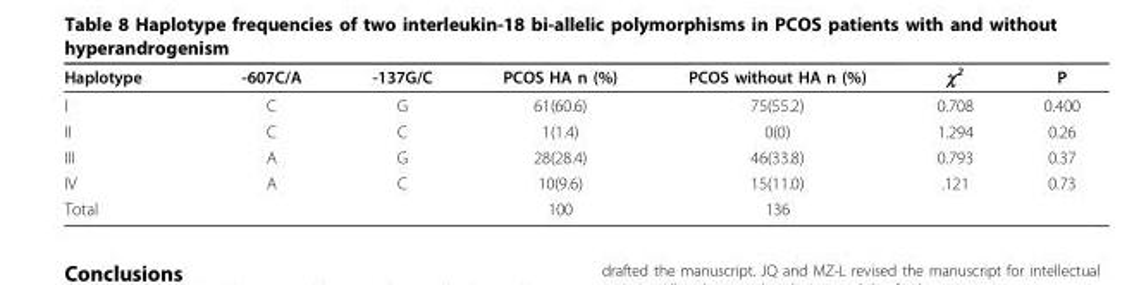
<table><thead><tr><td>Haplotype</td><td>-607C/A</td><td>-137G/C</td><td>PCOS HA n (%)</td><td>PCOS without HA n (%)</td><td>χ<sup>2</sup></td><td>P</td></tr></thead><tbody><tr><td>I</td><td>C</td><td>G</td><td>61(60.6)</td><td>75(55.2)</td><td>0.708</td><td>0.400</td></tr><tr><td>II</td><td>C</td><td>C</td><td>1(1.4)</td><td>0(0)</td><td>1.294</td><td>0.26</td></tr><tr><td>III</td><td>A</td><td>G</td><td>28(28.4)</td><td>46(33.8)</td><td>0.793</td><td>0.37</td></tr><tr><td>IV</td><td>A</td><td>C</td><td>10(9.6)</td><td>15(11.0)</td><td>.121</td><td>0.73</td></tr><tr><td>Total</td><td></td><td></td><td>100</td><td>136</td><td></td><td></td></tr></tbody></table>